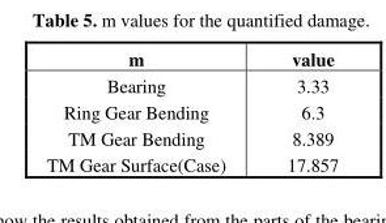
<table><thead><tr><td>m</td><td>value</td></tr></thead><tbody><tr><td>Bearing</td><td>3.33</td></tr><tr><td>Ring Gear Bending</td><td>6.3</td></tr><tr><td>TM Gear Bending</td><td>8.389</td></tr><tr><td>TM Gear Surface(Case)</td><td>17.857</td></tr></tbody></table>